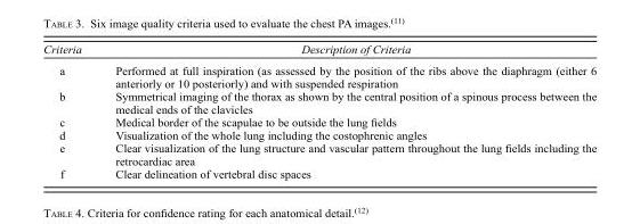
<table><thead><tr><td>Criteria</td><td>Description of Criteria</td></tr></thead><tbody><tr><td>a</td><td>Performed at full inspiration (as assessed by the position of the ribs above the diaphragm (either 6 anteriorly or 10 posteriorly) and with suspended respiration</td></tr><tr><td>b</td><td>Symmetrical imaging of the thorax as shown by the central position of a spinous process between the medical ends of the clavicles</td></tr><tr><td>c</td><td>Medical border of the scapulae to be outside the lung fields</td></tr><tr><td>d</td><td>Visualization of the whole lung including the costophrenic angles</td></tr><tr><td>e</td><td>Clear visualization of the lung structure and vascular pattern throughout the lung fields including the retrocardiac area</td></tr><tr><td>f</td><td>Clear delineation of vertebral disc spaces</td></tr></tbody></table>